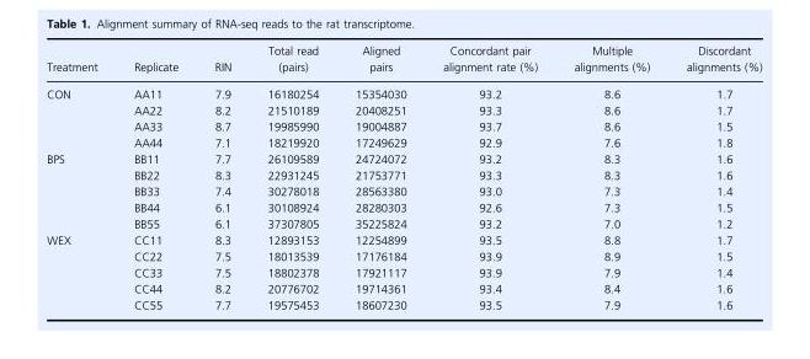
<table><thead><tr><td>Treatment</td><td>Replicate</td><td>RIN</td><td>Total read (pairs)</td><td>Aligned pairs</td><td>Concordant pair alignment rate (%)</td><td>Multiple alignments (%)</td><td>Discordant alignments (%)</td></tr></thead><tbody><tr><td rowspan="4">CON</td><td>AA11</td><td>7.9</td><td>16180254</td><td>15354030</td><td>93.2</td><td>8.6</td><td>1.7</td></tr><tr><td>AA22</td><td>8.2</td><td>21510189</td><td>20408251</td><td>93.3</td><td>8.6</td><td>1.7</td></tr><tr><td>AA33</td><td>8.7</td><td>19985990</td><td>19004887</td><td>93.7</td><td>8.6</td><td>1.5</td></tr><tr><td>AA44</td><td>7.1</td><td>18219920</td><td>17249629</td><td>92.9</td><td>7.6</td><td>1.8</td></tr><tr><td rowspan="5">BPS</td><td>BB11</td><td>7.7</td><td>26109589</td><td>24724072</td><td>93.2</td><td>8.3</td><td>1.6</td></tr><tr><td>BB22</td><td>8.3</td><td>22931245</td><td>21753771</td><td>93.3</td><td>8.3</td><td>1.6</td></tr><tr><td>BB33</td><td>7.4</td><td>30278018</td><td>28563380</td><td>93.0</td><td>7.3</td><td>1.4</td></tr><tr><td>BB44</td><td>6.1</td><td>30108924</td><td>28280303</td><td>92.6</td><td>7.3</td><td>1.5</td></tr><tr><td>BB55</td><td>6.1</td><td>37307805</td><td>35225824</td><td>93.2</td><td>7.0</td><td>1.2</td></tr><tr><td rowspan="5">WEX</td><td>CC11</td><td>8.3</td><td>12893153</td><td>12254899</td><td>93.5</td><td>8.8</td><td>1.7</td></tr><tr><td>CC22</td><td>7.5</td><td>18013539</td><td>17176184</td><td>93.9</td><td>8.9</td><td>1.5</td></tr><tr><td>CC33</td><td>7.5</td><td>18802378</td><td>17921117</td><td>93.9</td><td>7.9</td><td>1.4</td></tr><tr><td>CC44</td><td>8.2</td><td>20776702</td><td>19714361</td><td>93.4</td><td>8.4</td><td>1.6</td></tr><tr><td>CC55</td><td>7.7</td><td>19575453</td><td>18607230</td><td>93.5</td><td>7.9</td><td>1.6</td></tr></tbody></table>